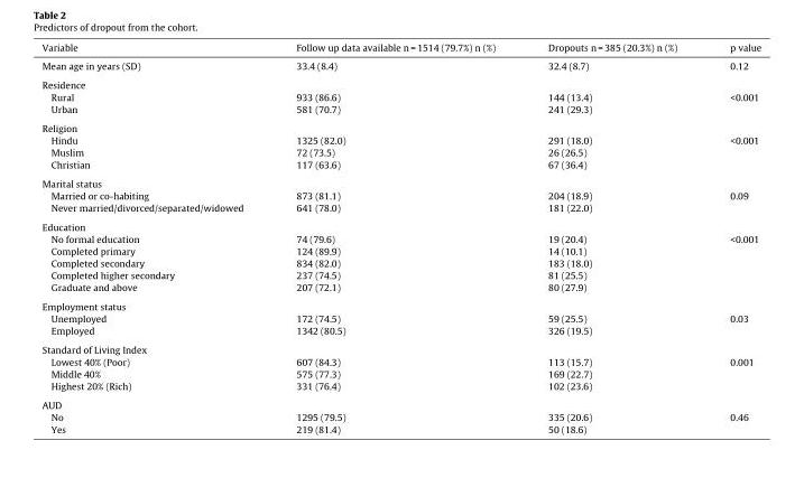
<table><thead><tr><td>Variable</td><td>Follow up data available n = 1514 (79.7%) n (%)</td><td>Dropouts n = 385 (20.3%) n (%)</td><td>p value</td></tr></thead><tbody><tr><td>Mean age in years (SD)</td><td>33.4 (8.4)</td><td>32.4 (8.7)</td><td>0.12</td></tr><tr><td colspan="4">Residence</td></tr><tr><td>Rural</td><td>933 (86.6)</td><td>144 (13.4)</td><td>&lt;0.001</td></tr><tr><td>Urban</td><td>581 (70.7)</td><td>241 (29.3)</td><td></td></tr><tr><td colspan="4">Religion</td></tr><tr><td>Hindu</td><td>1325 (82.0)</td><td>291 (18.0)</td><td>&lt;0.001</td></tr><tr><td>Muslim</td><td>72 (73.5)</td><td>26 (26.5)</td><td></td></tr><tr><td>Christian</td><td>117 (63.6)</td><td>67 (36.4)</td><td></td></tr><tr><td colspan="4">Marital status</td></tr><tr><td>Married or co-habiting</td><td>873 (81.1)</td><td>204 (18.9)</td><td>0.09</td></tr><tr><td>Never married/divorced/separated/widowed</td><td>641 (78.0)</td><td>181 (22.0)</td><td></td></tr><tr><td colspan="4">Education</td></tr><tr><td>No formal education</td><td>74 (79.6)</td><td>19 (20.4)</td><td>&lt;0.001</td></tr><tr><td>Completed primary</td><td>124 (89.9)</td><td>14 (10.1)</td><td></td></tr><tr><td>Completed secondary</td><td>834 (82.0)</td><td>183 (18.0)</td><td></td></tr><tr><td>Completed higher secondary</td><td>237 (74.5)</td><td>81 (25.5)</td><td></td></tr><tr><td>Graduate and above</td><td>207 (72.1)</td><td>80 (27.9)</td><td></td></tr><tr><td colspan="4">Employment status</td></tr><tr><td>Unemployed</td><td>172 (74.5)</td><td>59 (25.5)</td><td>0.03</td></tr><tr><td>Employed</td><td>1342 (80.5)</td><td>326 (19.5)</td><td></td></tr><tr><td colspan="4">Standard of Living Index</td></tr><tr><td>Lowest 40% (Poor)</td><td>607 (84.3)</td><td>113 (15.7)</td><td>0.001</td></tr><tr><td>Middle 40%</td><td>575 (77.3)</td><td>169 (22.7)</td><td></td></tr><tr><td>Highest 20% (Rich)</td><td>331 (76.4)</td><td>102 (23.6)</td><td></td></tr><tr><td colspan="4">AUD</td></tr><tr><td>No</td><td>1295 (79.5)</td><td>335 (20.6)</td><td>0.46</td></tr><tr><td>Yes</td><td>219 (81.4)</td><td>50 (18.6)</td><td></td></tr></tbody></table>